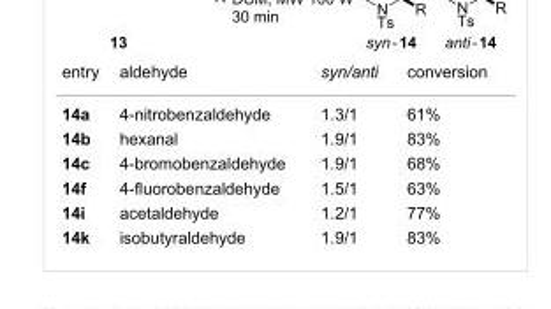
<table><tbody><tr><td>entry</td><td>aldehyde</td><td>syn/anti</td><td>conversion</td></tr><tr><td>14a</td><td>4-nitrobenzaldehyde</td><td>1.3/1</td><td>61%</td></tr><tr><td>14b</td><td>hexanal</td><td>1.9/1</td><td>83%</td></tr><tr><td>14c</td><td>4-bromobenzaldehyde</td><td>1.9/1</td><td>68%</td></tr><tr><td>14f</td><td>4-fluorobenzaldehyde</td><td>1.5/1</td><td>63%</td></tr><tr><td>14i</td><td>acetaldehyde</td><td>1.2/1</td><td>77%</td></tr><tr><td>14k</td><td>isobutyraldehyde</td><td>1.9/1</td><td>83%</td></tr></tbody></table>